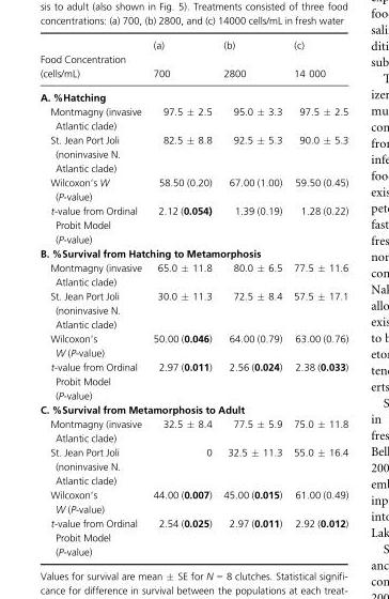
<table><thead><tr><td rowspan="2">Food Concentration (cells/mL)</td><td rowspan="2">(a) 700</td><td rowspan="2">(b) 2800</td><td rowspan="2">(c) 14 000</td></tr><tr></tr></thead><tbody><tr><td colspan="4">A. %Hatching</td></tr><tr><td>Montmagny (invasive Atlantic clade)</td><td>97.5 ± 2.5</td><td>95.0 ± 3.3</td><td>97.5 ± 2.5</td></tr><tr><td>St. Jean Port Joli (noninvasive N. Atlantic clade)</td><td>82.5 ± 8.8</td><td>92.5 ± 5.3</td><td>90.0 ± 5.3</td></tr><tr><td>Wilcoxon’s W (P-value)</td><td>58.50 (0.20)</td><td>67.00 (1.00)</td><td>59.50 (0.45)</td></tr><tr><td>t-value from Ordinal Probit Model (P-value)</td><td>2.12 (0.054)</td><td>1.39 (0.19)</td><td>1.28 (0.22)</td></tr><tr><td colspan="4">B. %Survival from Hatching to Metamorphosis</td></tr><tr><td>Montmagny (invasive Atlantic clade)</td><td>65.0 ± 11.8</td><td>80.0 ± 6.5</td><td>77.5 ± 11.6</td></tr><tr><td>St. Jean Port Joli (noninvasive N. Atlantic clade)</td><td>30.0 ± 11.3</td><td>72.5 ± 8.4</td><td>57.5 ± 17.1</td></tr><tr><td>Wilcoxon’s W (P-value)</td><td>50.00 (0.046)</td><td>64.00 (0.79)</td><td>63.00 (0.76)</td></tr><tr><td>t-value from Ordinal Probit Model (P-value)</td><td>2.97 (0.011)</td><td>2.56 (0.024)</td><td>2.38 (0.033)</td></tr><tr><td colspan="4">C. %Survival from Metamorphosis to Adult</td></tr><tr><td>Montmagny (invasive Atlantic clade)</td><td>32.5 ± 8.4</td><td>77.5 ± 5.9</td><td>75.0 ± 11.8</td></tr><tr><td>St. Jean Port Joli (noninvasive N. Atlantic clade)</td><td>0</td><td>32.5 ± 11.3</td><td>55.0 ± 16.4</td></tr><tr><td>Wilcoxon’s W (P-value)</td><td>44.00 (0.007)</td><td>45.00 (0.015)</td><td>61.00 (0.49)</td></tr><tr><td>t-value from Ordinal Probit Model (P-value)</td><td>2.54 (0.025)</td><td>2.97 (0.011)</td><td>2.92 (0.012)</td></tr></tbody></table>